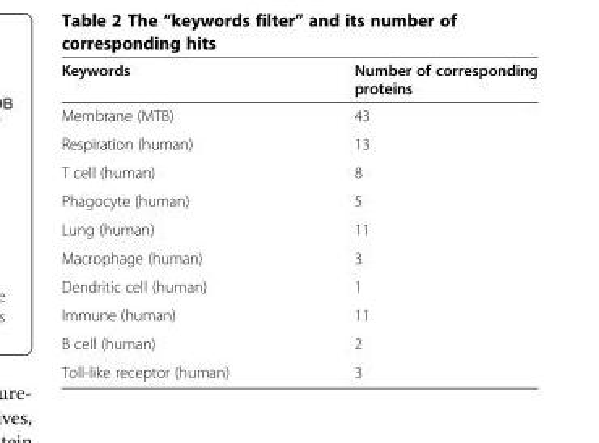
<table><thead><tr><td>Keywords</td><td>Number of corresponding proteins</td></tr></thead><tbody><tr><td>Membrane (MTB)</td><td>43</td></tr><tr><td>Respiration (human)</td><td>13</td></tr><tr><td>T cell (human)</td><td>8</td></tr><tr><td>Phagocyte (human)</td><td>5</td></tr><tr><td>Lung (human)</td><td>11</td></tr><tr><td>Macrophage (human)</td><td>3</td></tr><tr><td>Dendritic cell (human)</td><td>1</td></tr><tr><td>Immune (human)</td><td>11</td></tr><tr><td>B cell (human)</td><td>2</td></tr><tr><td>Toll-like receptor (human)</td><td>3</td></tr></tbody></table>